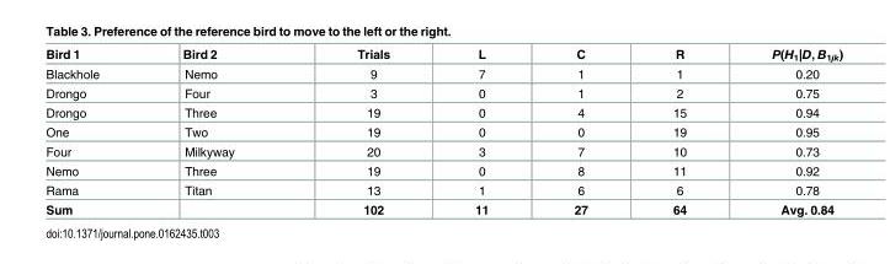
<table><thead><tr><td>Bird 1</td><td>Bird 2</td><td>Trials</td><td>L</td><td>C</td><td>R</td><td>P(H<sub>1</sub>|D, B<sub>1jk</sub>)</td></tr></thead><tbody><tr><td>Blackhole</td><td>Nemo</td><td>9</td><td>7</td><td>1</td><td>1</td><td>0.20</td></tr><tr><td>Drongo</td><td>Four</td><td>3</td><td>0</td><td>1</td><td>2</td><td>0.75</td></tr><tr><td>Drongo</td><td>Three</td><td>19</td><td>0</td><td>4</td><td>15</td><td>0.94</td></tr><tr><td>One</td><td>Two</td><td>19</td><td>0</td><td>0</td><td>19</td><td>0.95</td></tr><tr><td>Four</td><td>Milkyway</td><td>20</td><td>3</td><td>7</td><td>10</td><td>0.73</td></tr><tr><td>Nemo</td><td>Three</td><td>19</td><td>0</td><td>8</td><td>11</td><td>0.92</td></tr><tr><td>Rama</td><td>Titan</td><td>13</td><td>1</td><td>6</td><td>6</td><td>0.78</td></tr><tr><td>Sum</td><td></td><td>102</td><td>11</td><td>27</td><td>64</td><td>Avg. 0.84</td></tr></tbody></table>